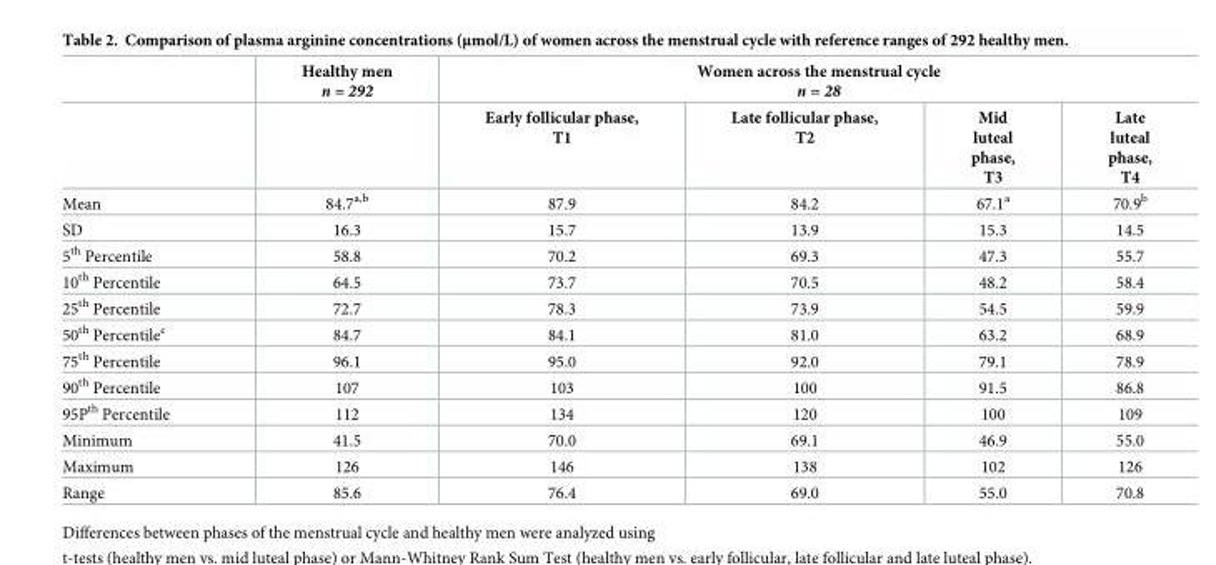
<table><thead><tr><td rowspan="2"></td><td rowspan="2">Healthy men n = 292</td><td colspan="4">Women across the menstrual cycle n = 28</td></tr><tr><td>Early follicular phase, T1</td><td>Late follicular phase, T2</td><td>Mid luteal phase, T3</td><td>Late luteal phase, T4</td></tr></thead><tbody><tr><td>Mean</td><td>84.7<sup>a,b</sup></td><td>87.9</td><td>84.2</td><td>67.1<sup>a</sup></td><td>70.9<sup>b</sup></td></tr><tr><td>SD</td><td>16.3</td><td>15.7</td><td>13.9</td><td>15.3</td><td>14.5</td></tr><tr><td>5<sup>th</sup> Percentile</td><td>58.8</td><td>70.2</td><td>69.3</td><td>47.3</td><td>55.7</td></tr><tr><td>10<sup>th</sup> Percentile</td><td>64.5</td><td>73.7</td><td>70.5</td><td>48.2</td><td>58.4</td></tr><tr><td>25<sup>th</sup> Percentile</td><td>72.7</td><td>78.3</td><td>73.9</td><td>54.5</td><td>59.9</td></tr><tr><td>50<sup>th</sup> Percentile<sup>c</sup></td><td>84.7</td><td>84.1</td><td>81.0</td><td>63.2</td><td>68.9</td></tr><tr><td>75<sup>th</sup> Percentile</td><td>96.1</td><td>95.0</td><td>92.0</td><td>79.1</td><td>78.9</td></tr><tr><td>90<sup>th</sup> Percentile</td><td>107</td><td>103</td><td>100</td><td>91.5</td><td>86.8</td></tr><tr><td>95P<sup>th</sup> Percentile</td><td>112</td><td>134</td><td>120</td><td>100</td><td>109</td></tr><tr><td>Minimum</td><td>41.5</td><td>70.0</td><td>69.1</td><td>46.9</td><td>55.0</td></tr><tr><td>Maximum</td><td>126</td><td>146</td><td>138</td><td>102</td><td>126</td></tr><tr><td>Range</td><td>85.6</td><td>76.4</td><td>69.0</td><td>55.0</td><td>70.8</td></tr></tbody></table>